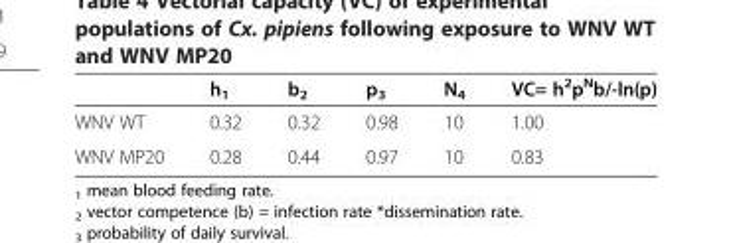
<table><thead><tr><td></td><td>h<sub>1</sub></td><td>b<sub>2</sub></td><td>p<sub>3</sub></td><td>N<sub>4</sub></td><td>VC= h<sup>2</sup>p<sup>N</sup>b/-ln(p)</td></tr></thead><tbody><tr><td>WNV WT</td><td>0.32</td><td>0.32</td><td>0.98</td><td>10</td><td>1.00</td></tr><tr><td>WNV MP20</td><td>0.28</td><td>0.44</td><td>0.97</td><td>10</td><td>0.83</td></tr></tbody></table>